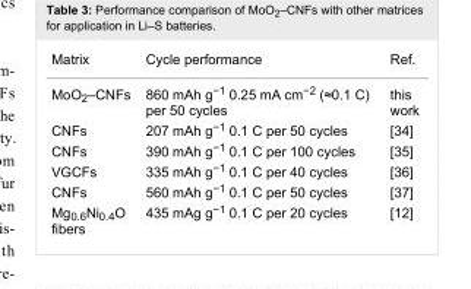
<table><tbody><tr><td>Matrix</td><td>Cycle performance</td><td>Ref.</td></tr><tr><td>MoO<sub>2</sub>–CNFs</td><td>860 mAh g<sup>−1</sup> 0.25 mA cm<sup>−2</sup> (≈0.1 C) per 50 cycles</td><td>this work</td></tr><tr><td>CNFs</td><td>207 mAh g<sup>−1</sup> 0.1 C per 50 cycles</td><td>[34]</td></tr><tr><td>CNFs</td><td>390 mAh g<sup>−1</sup> 0.1 C per 100 cycles</td><td>[35]</td></tr><tr><td>VGCFs</td><td>335 mAh g<sup>−1</sup> 0.1 C per 40 cycles</td><td>[36]</td></tr><tr><td>CNFs</td><td>560 mAh g<sup>−1</sup> 0.1 C per 50 cycles</td><td>[37]</td></tr><tr><td>Mg<sub>0.6</sub>Ni<sub>0.4</sub>O fibers</td><td>435 mAg g<sup>−1</sup> 0.1 C per 20 cycles</td><td>[12]</td></tr></tbody></table>